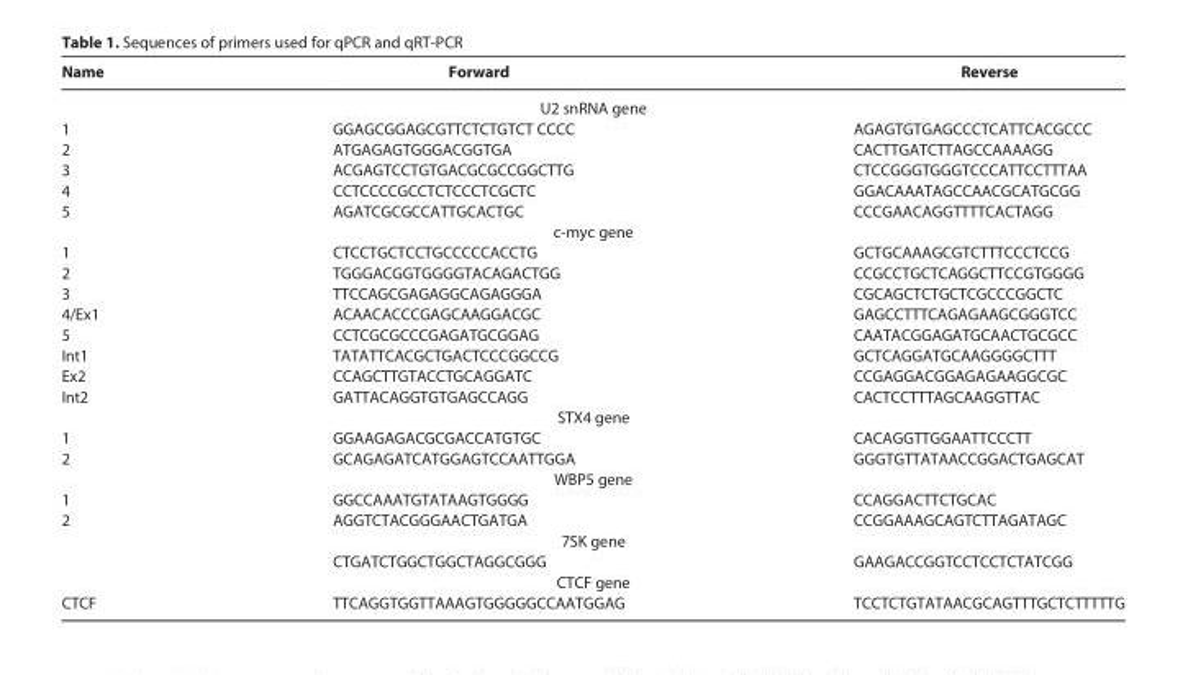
<table><thead><tr><td>Name</td><td>Forward</td><td>Reverse</td></tr></thead><tbody><tr><td colspan="3">U2 snRNA gene</td></tr><tr><td>1</td><td>GGAGCGGAGCGTTCTCTGTCT CCCC</td><td>AGAGTGTGAGCCCTCATTCACGCCC</td></tr><tr><td>2</td><td>ATGAGAGTGGGACGGTGA</td><td>CACTTGATCTTAGCCAAAAGG</td></tr><tr><td>3</td><td>ACGAGTCCTGTGACGCGCCGGCTTG</td><td>CTCCGGGTGGGTCCCATTCCTTTAA</td></tr><tr><td>4</td><td>CCTCCCCGCCTCTCCCTCGCTC</td><td>GGACAAATAGCCAACGCATGCGG</td></tr><tr><td>5</td><td>AGATCGCGCCATTGCACTGC</td><td>CCCGAACAGGTTTTCACTAGG</td></tr><tr><td colspan="3">c-myc gene</td></tr><tr><td>1</td><td>CTCCTGCTCCTGCCCCCACCTG</td><td>GCTGCAAAGCGTCTTTCCCTCCG</td></tr><tr><td>2</td><td>TGGGACGGTGGGGTACAGACTGG</td><td>CCGCCTGCTCAGGCTTCCGTGGGG</td></tr><tr><td>3</td><td>TTCCAGCGAGAGGCAGAGGGA</td><td>CGCAGCTCTGCTCGCCCGGCTC</td></tr><tr><td>4/Ex1</td><td>ACAACACCCGAGCAAGGACGC</td><td>GAGCCTTTCAGAGAAGCGGGTCC</td></tr><tr><td>5</td><td>CCTCGCGCCCGAGATGCGGAG</td><td>CAATACGGAGATGCAACTGCGCC</td></tr><tr><td>Int1</td><td>TATATTCACGCTGACTCCCGGCCG</td><td>GCTCAGGATGCAAGGGGCTTT</td></tr><tr><td>Ex2</td><td>CCAGCTTGTACCTGCAGGATC</td><td>CCGAGGACGGAGAGAAGGCGC</td></tr><tr><td>Int2</td><td>GATTACAGGTGTGAGCCAGG</td><td>CACTCCTTTAGCAAGGTTAC</td></tr><tr><td colspan="3">STX4 gene</td></tr><tr><td>1</td><td>GGAAGAGACGCGACCATGTGC</td><td>CACAGGTTGGAATTCCCTT</td></tr><tr><td>2</td><td>GCAGAGATCATGGAGTCCAATTGGA</td><td>GGGTGTTATAACCGGACTGAGCAT</td></tr><tr><td colspan="3">WBP5 gene</td></tr><tr><td>1</td><td>GGCCAAATGTATAAGTGGGG</td><td>CCAGGACTTCTGCAC</td></tr><tr><td>2</td><td>AGGTCTACGGGAACTGATGA</td><td>CCGGAAAGCAGTCTTAGATAGC</td></tr><tr><td colspan="3">7SK gene</td></tr><tr><td></td><td>CTGATCTGGCTGGCTAGGCGGG</td><td>GAAGACCGGTCCTCCTCTATCGG</td></tr><tr><td colspan="3">CTCF gene</td></tr><tr><td>CTCF</td><td>TTCAGGTGGTTAAAGTGGGGGCCAATGGAG</td><td>TCCTCTGTATAACGCAGTTTGCTCTTTTTG</td></tr></tbody></table>